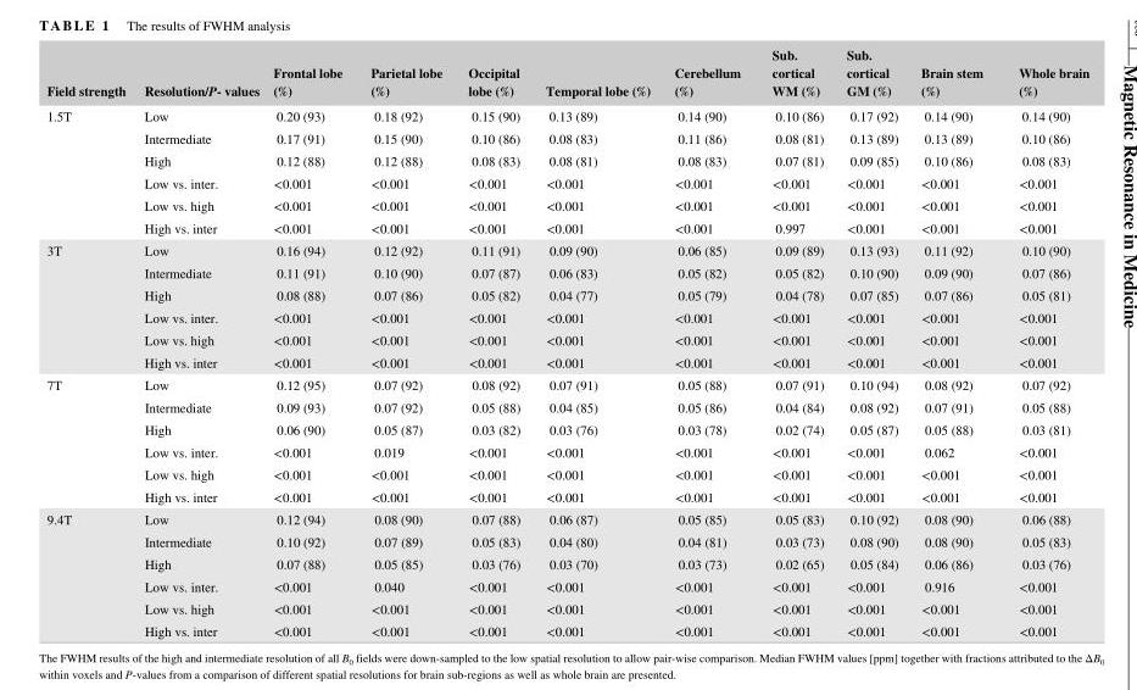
<table><thead><tr><td>Field strength</td><td>Resolution/P‐ values</td><td>Frontal lobe (%)</td><td>Parietal lobe (%)</td><td>Occipital lobe (%)</td><td>Temporal lobe (%)</td><td>Cerebellum (%)</td><td>Sub. cortical WM (%)</td><td>Sub. cortical GM (%)</td><td>Brain stem (%)</td><td>Whole brain (%)</td></tr></thead><tbody><tr><td rowspan="6">1.5T</td><td>Low</td><td>0.20 (93)</td><td>0.18 (92)</td><td>0.15 (90)</td><td>0.13 (89)</td><td>0.14 (90)</td><td>0.10 (86)</td><td>0.17 (92)</td><td>0.14 (90)</td><td>0.14 (90)</td></tr><tr><td>Intermediate</td><td>0.17 (91)</td><td>0.15 (90)</td><td>0.10 (86)</td><td>0.08 (83)</td><td>0.11 (86)</td><td>0.08 (81)</td><td>0.13 (89)</td><td>0.13 (89)</td><td>0.10 (86)</td></tr><tr><td>High</td><td>0.12 (88)</td><td>0.12 (88)</td><td>0.08 (83)</td><td>0.08 (81)</td><td>0.08 (83)</td><td>0.07 (81)</td><td>0.09 (85)</td><td>0.10 (86)</td><td>0.08 (83)</td></tr><tr><td>Low vs. inter.</td><td>&lt;0.001</td><td>&lt;0.001</td><td>&lt;0.001</td><td>&lt;0.001</td><td>&lt;0.001</td><td>&lt;0.001</td><td>&lt;0.001</td><td>&lt;0.001</td><td>&lt;0.001</td></tr><tr><td>Low vs. high</td><td>&lt;0.001</td><td>&lt;0.001</td><td>&lt;0.001</td><td>&lt;0.001</td><td>&lt;0.001</td><td>&lt;0.001</td><td>&lt;0.001</td><td>&lt;0.001</td><td>&lt;0.001</td></tr><tr><td>High vs. inter</td><td>&lt;0.001</td><td>&lt;0.001</td><td>&lt;0.001</td><td>&lt;0.001</td><td>&lt;0.001</td><td>0.997</td><td>&lt;0.001</td><td>&lt;0.001</td><td>&lt;0.001</td></tr><tr><td rowspan="6">3T</td><td>Low</td><td>0.16 (94)</td><td>0.12 (92)</td><td>0.11 (91)</td><td>0.09 (90)</td><td>0.06 (85)</td><td>0.09 (89)</td><td>0.13 (93)</td><td>0.11 (92)</td><td>0.10 (90)</td></tr><tr><td>Intermediate</td><td>0.11 (91)</td><td>0.10 (90)</td><td>0.07 (87)</td><td>0.06 (83)</td><td>0.05 (82)</td><td>0.05 (82)</td><td>0.10 (90)</td><td>0.09 (90)</td><td>0.07 (86)</td></tr><tr><td>High</td><td>0.08 (88)</td><td>0.07 (86)</td><td>0.05 (82)</td><td>0.04 (77)</td><td>0.05 (79)</td><td>0.04 (78)</td><td>0.07 (85)</td><td>0.07 (86)</td><td>0.05 (81)</td></tr><tr><td>Low vs. inter.</td><td>&lt;0.001</td><td>&lt;0.001</td><td>&lt;0.001</td><td>&lt;0.001</td><td>&lt;0.001</td><td>&lt;0.001</td><td>&lt;0.001</td><td>&lt;0.001</td><td>&lt;0.001</td></tr><tr><td>Low vs. high</td><td>&lt;0.001</td><td>&lt;0.001</td><td>&lt;0.001</td><td>&lt;0.001</td><td>&lt;0.001</td><td>&lt;0.001</td><td>&lt;0.001</td><td>&lt;0.001</td><td>&lt;0.001</td></tr><tr><td>High vs. inter</td><td>&lt;0.001</td><td>&lt;0.001</td><td>&lt;0.001</td><td>&lt;0.001</td><td>&lt;0.001</td><td>&lt;0.001</td><td>&lt;0.001</td><td>&lt;0.001</td><td>&lt;0.001</td></tr><tr><td rowspan="6">7T</td><td>Low</td><td>0.12 (95)</td><td>0.07 (92)</td><td>0.08 (92)</td><td>0.07 (91)</td><td>0.05 (88)</td><td>0.07 (91)</td><td>0.10 (94)</td><td>0.08 (92)</td><td>0.07 (92)</td></tr><tr><td>Intermediate</td><td>0.09 (93)</td><td>0.07 (92)</td><td>0.05 (88)</td><td>0.04 (85)</td><td>0.05 (86)</td><td>0.04 (84)</td><td>0.08 (92)</td><td>0.07 (91)</td><td>0.05 (88)</td></tr><tr><td>High</td><td>0.06 (90)</td><td>0.05 (87)</td><td>0.03 (82)</td><td>0.03 (76)</td><td>0.03 (78)</td><td>0.02 (74)</td><td>0.05 (87)</td><td>0.05 (88)</td><td>0.03 (81)</td></tr><tr><td>Low vs. inter.</td><td>&lt;0.001</td><td>0.019</td><td>&lt;0.001</td><td>&lt;0.001</td><td>&lt;0.001</td><td>&lt;0.001</td><td>&lt;0.001</td><td>0.062</td><td>&lt;0.001</td></tr><tr><td>Low vs. high</td><td>&lt;0.001</td><td>&lt;0.001</td><td>&lt;0.001</td><td>&lt;0.001</td><td>&lt;0.001</td><td>&lt;0.001</td><td>&lt;0.001</td><td>&lt;0.001</td><td>&lt;0.001</td></tr><tr><td>High vs. inter</td><td>&lt;0.001</td><td>&lt;0.001</td><td>&lt;0.001</td><td>&lt;0.001</td><td>&lt;0.001</td><td>&lt;0.001</td><td>&lt;0.001</td><td>&lt;0.001</td><td>&lt;0.001</td></tr><tr><td rowspan="6">9.4T</td><td>Low</td><td>0.12 (94)</td><td>0.08 (90)</td><td>0.07 (88)</td><td>0.06 (87)</td><td>0.05 (85)</td><td>0.05 (83)</td><td>0.10 (92)</td><td>0.08 (90)</td><td>0.06 (88)</td></tr><tr><td>Intermediate</td><td>0.10 (92)</td><td>0.07 (89)</td><td>0.05 (83)</td><td>0.04 (80)</td><td>0.04 (81)</td><td>0.03 (73)</td><td>0.08 (90)</td><td>0.08 (90)</td><td>0.05 (83)</td></tr><tr><td>High</td><td>0.07 (88)</td><td>0.05 (85)</td><td>0.03 (76)</td><td>0.03 (70)</td><td>0.03 (73)</td><td>0.02 (65)</td><td>0.05 (84)</td><td>0.06 (86)</td><td>0.03 (76)</td></tr><tr><td>Low vs. inter.</td><td>&lt;0.001</td><td>0.040</td><td>&lt;0.001</td><td>&lt;0.001</td><td>&lt;0.001</td><td>&lt;0.001</td><td>&lt;0.001</td><td>0.916</td><td>&lt;0.001</td></tr><tr><td>Low vs. high</td><td>&lt;0.001</td><td>&lt;0.001</td><td>&lt;0.001</td><td>&lt;0.001</td><td>&lt;0.001</td><td>&lt;0.001</td><td>&lt;0.001</td><td>&lt;0.001</td><td>&lt;0.001</td></tr><tr><td>High vs. inter</td><td>&lt;0.001</td><td>&lt;0.001</td><td>&lt;0.001</td><td>&lt;0.001</td><td>&lt;0.001</td><td>&lt;0.001</td><td>&lt;0.001</td><td>&lt;0.001</td><td>&lt;0.001</td></tr></tbody></table>